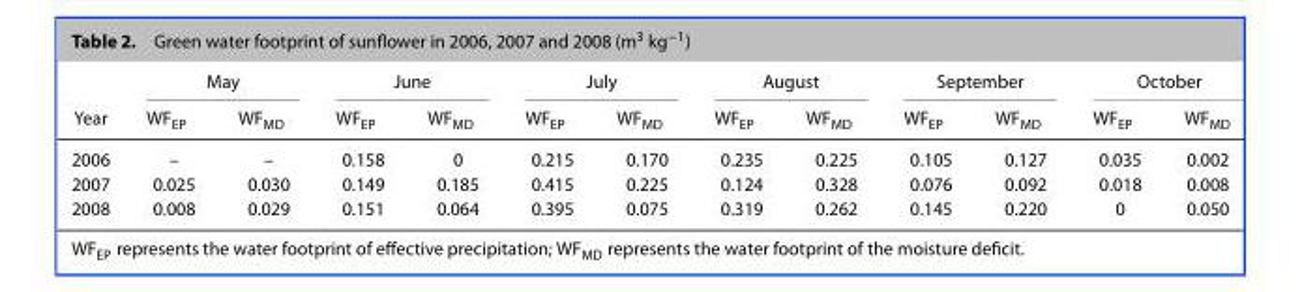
<table><thead><tr><td rowspan="2">Year</td><td colspan="2">May</td><td colspan="2">June</td><td colspan="2">July</td><td colspan="2">August</td><td colspan="2">September</td><td colspan="2">October</td></tr><tr><td>WF<sub>EP</sub></td><td>WF<sub>MD</sub></td><td>WF<sub>EP</sub></td><td>WF<sub>MD</sub></td><td>WF<sub>EP</sub></td><td>WF<sub>MD</sub></td><td>WF<sub>EP</sub></td><td>WF<sub>MD</sub></td><td>WF<sub>EP</sub></td><td>WF<sub>MD</sub></td><td>WF<sub>EP</sub></td><td>WF<sub>MD</sub></td></tr></thead><tbody><tr><td>2006</td><td>–</td><td>–</td><td>0.158</td><td>0</td><td>0.215</td><td>0.170</td><td>0.235</td><td>0.225</td><td>0.105</td><td>0.127</td><td>0.035</td><td>0.002</td></tr><tr><td>2007</td><td>0.025</td><td>0.030</td><td>0.149</td><td>0.185</td><td>0.415</td><td>0.225</td><td>0.124</td><td>0.328</td><td>0.076</td><td>0.092</td><td>0.018</td><td>0.008</td></tr><tr><td>2008</td><td>0.008</td><td>0.029</td><td>0.151</td><td>0.064</td><td>0.395</td><td>0.075</td><td>0.319</td><td>0.262</td><td>0.145</td><td>0.220</td><td>0</td><td>0.050</td></tr></tbody></table>